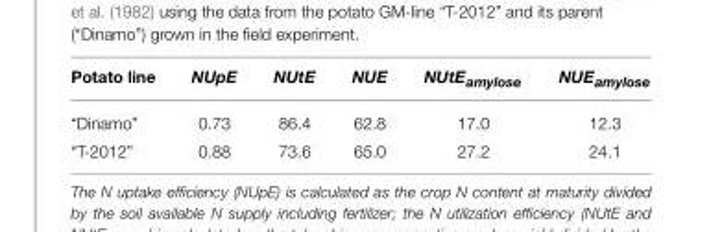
<table><thead><tr><td>Potato line</td><td>NUpE</td><td>NUtE</td><td>NUE</td><td>NUtEamylose</td><td>NUEamylose</td></tr></thead><tbody><tr><td>“Dinamo”</td><td>0.73</td><td>86.4</td><td>62.8</td><td>17.0</td><td>12.3</td></tr><tr><td>“T-2012”</td><td>0.88</td><td>73.6</td><td>65.0</td><td>27.2</td><td>24.1</td></tr></tbody></table>